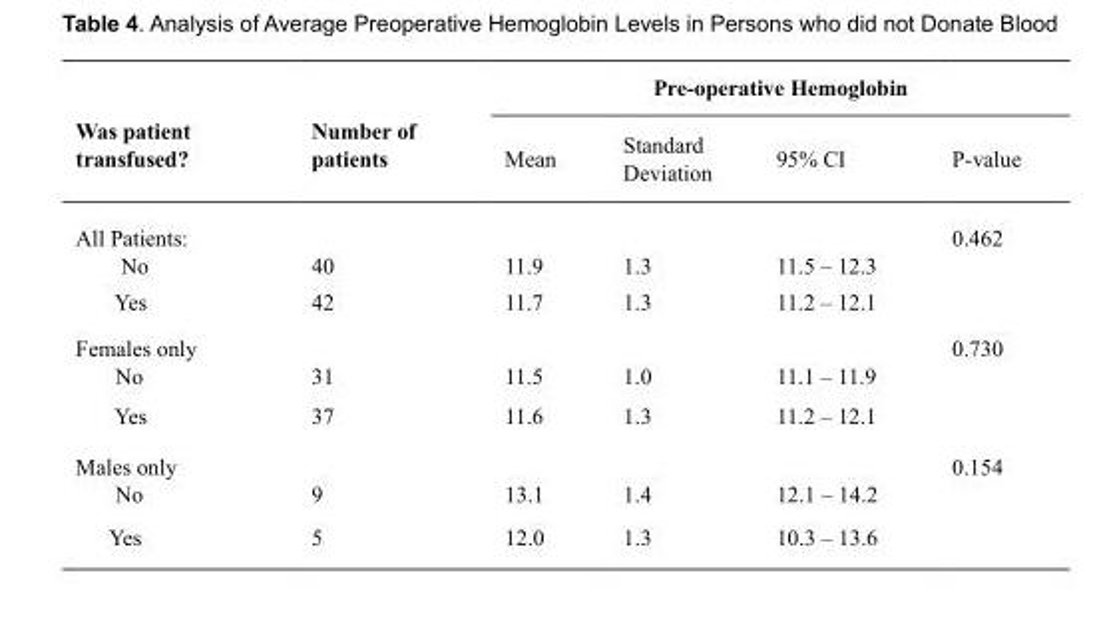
<table><thead><tr><td rowspan="2">Was patient transfused?</td><td rowspan="2">Number of patients</td><td colspan="4">Pre-operative Hemoglobin</td></tr><tr><td>Mean</td><td>Standard Deviation</td><td>95% CI</td><td>P-value</td></tr></thead><tbody><tr><td colspan="5">All Patients:</td><td rowspan="2">0.462</td></tr><tr><td>No</td><td>40</td><td>11.9</td><td>1.3</td><td>11.5 – 12.3</td></tr><tr><td>Yes</td><td>42</td><td>11.7</td><td>1.3</td><td>11.2 – 12.1</td><td></td></tr><tr><td colspan="5">Females only</td><td rowspan="2">0.730</td></tr><tr><td>No</td><td>31</td><td>11.5</td><td>1.0</td><td>11.1 – 11.9</td></tr><tr><td>Yes</td><td>37</td><td>11.6</td><td>1.3</td><td>11.2 – 12.1</td><td></td></tr><tr><td colspan="5">Males only</td><td rowspan="2">0.154</td></tr><tr><td>No</td><td>9</td><td>13.1</td><td>1.4</td><td>12.1 – 14.2</td></tr><tr><td>Yes</td><td>5</td><td>12.0</td><td>1.3</td><td>10.3 – 13.6</td><td></td></tr></tbody></table>